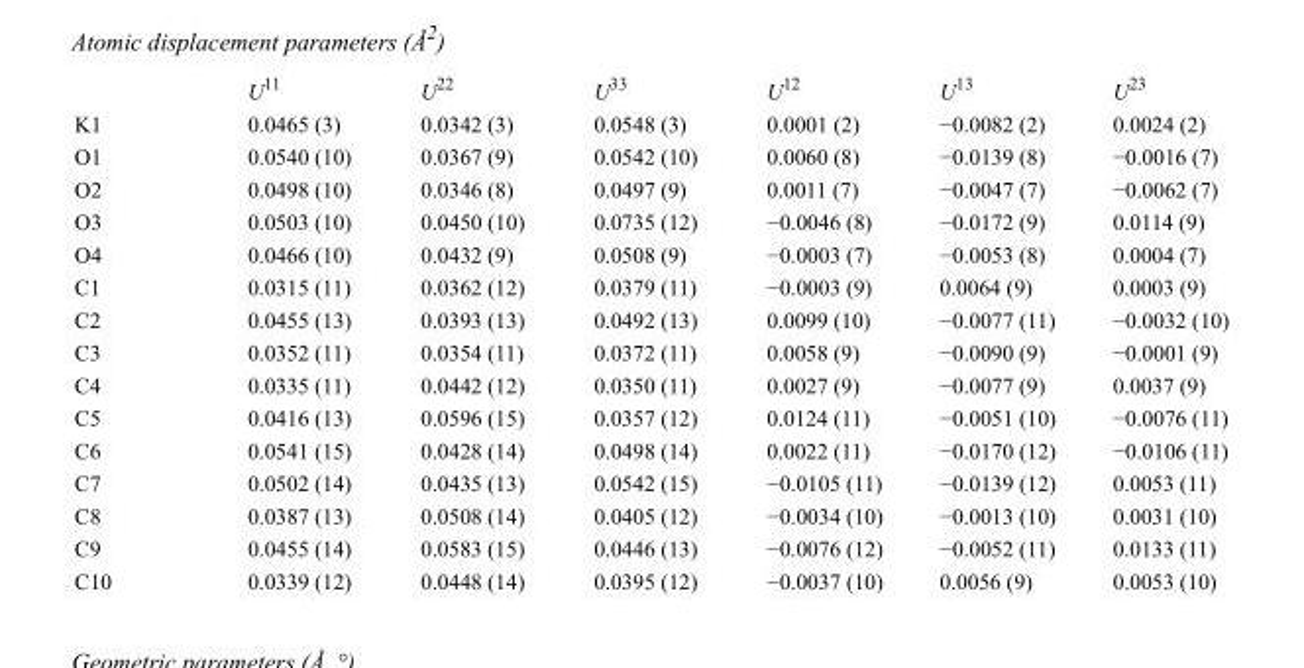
<table><thead><tr><td></td><td>U<sup>11</sup></td><td>U<sup>22</sup></td><td>U<sup>33</sup></td><td>U<sup>12</sup></td><td>U<sup>13</sup></td><td>U<sup>23</sup></td></tr></thead><tbody><tr><td>K1</td><td>0.0465 (3)</td><td>0.0342 (3)</td><td>0.0548 (3)</td><td>0.0001 (2)</td><td>−0.0082 (2)</td><td>0.0024 (2)</td></tr><tr><td>O1</td><td>0.0540 (10)</td><td>0.0367 (9)</td><td>0.0542 (10)</td><td>0.0060 (8)</td><td>−0.0139 (8)</td><td>−0.0016 (7)</td></tr><tr><td>O2</td><td>0.0498 (10)</td><td>0.0346 (8)</td><td>0.0497 (9)</td><td>0.0011 (7)</td><td>−0.0047 (7)</td><td>−0.0062 (7)</td></tr><tr><td>O3</td><td>0.0503 (10)</td><td>0.0450 (10)</td><td>0.0735 (12)</td><td>−0.0046 (8)</td><td>−0.0172 (9)</td><td>0.0114 (9)</td></tr><tr><td>O4</td><td>0.0466 (10)</td><td>0.0432 (9)</td><td>0.0508 (9)</td><td>−0.0003 (7)</td><td>−0.0053 (8)</td><td>0.0004 (7)</td></tr><tr><td>C1</td><td>0.0315 (11)</td><td>0.0362 (12)</td><td>0.0379 (11)</td><td>−0.0003 (9)</td><td>0.0064 (9)</td><td>0.0003 (9)</td></tr><tr><td>C2</td><td>0.0455 (13)</td><td>0.0393 (13)</td><td>0.0492 (13)</td><td>0.0099 (10)</td><td>−0.0077 (11)</td><td>−0.0032 (10)</td></tr><tr><td>C3</td><td>0.0352 (11)</td><td>0.0354 (11)</td><td>0.0372 (11)</td><td>0.0058 (9)</td><td>−0.0090 (9)</td><td>−0.0001 (9)</td></tr><tr><td>C4</td><td>0.0335 (11)</td><td>0.0442 (12)</td><td>0.0350 (11)</td><td>0.0027 (9)</td><td>−0.0077 (9)</td><td>0.0037 (9)</td></tr><tr><td>C5</td><td>0.0416 (13)</td><td>0.0596 (15)</td><td>0.0357 (12)</td><td>0.0124 (11)</td><td>−0.0051 (10)</td><td>−0.0076 (11)</td></tr><tr><td>C6</td><td>0.0541 (15)</td><td>0.0428 (14)</td><td>0.0498 (14)</td><td>0.0022 (11)</td><td>−0.0170 (12)</td><td>−0.0106 (11)</td></tr><tr><td>C7</td><td>0.0502 (14)</td><td>0.0435 (13)</td><td>0.0542 (15)</td><td>−0.0105 (11)</td><td>−0.0139 (12)</td><td>0.0053 (11)</td></tr><tr><td>C8</td><td>0.0387 (13)</td><td>0.0508 (14)</td><td>0.0405 (12)</td><td>−0.0034 (10)</td><td>−0.0013 (10)</td><td>0.0031 (10)</td></tr><tr><td>C9</td><td>0.0455 (14)</td><td>0.0583 (15)</td><td>0.0446 (13)</td><td>−0.0076 (12)</td><td>−0.0052 (11)</td><td>0.0133 (11)</td></tr><tr><td>C10</td><td>0.0339 (12)</td><td>0.0448 (14)</td><td>0.0395 (12)</td><td>−0.0037 (10)</td><td>0.0056 (9)</td><td>0.0053 (10)</td></tr></tbody></table>